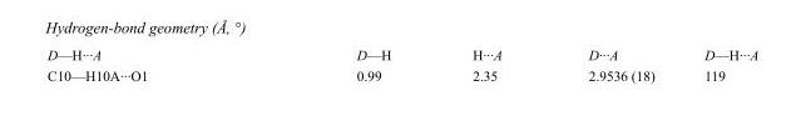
<table><tbody><tr><td>D—H···A</td><td>D—H</td><td>H···A</td><td>D···A</td><td>D—H···A</td></tr><tr><td>C10—H10A···O1</td><td>0.99</td><td>2.35</td><td>2.9536 (18)</td><td>119</td></tr></tbody></table>